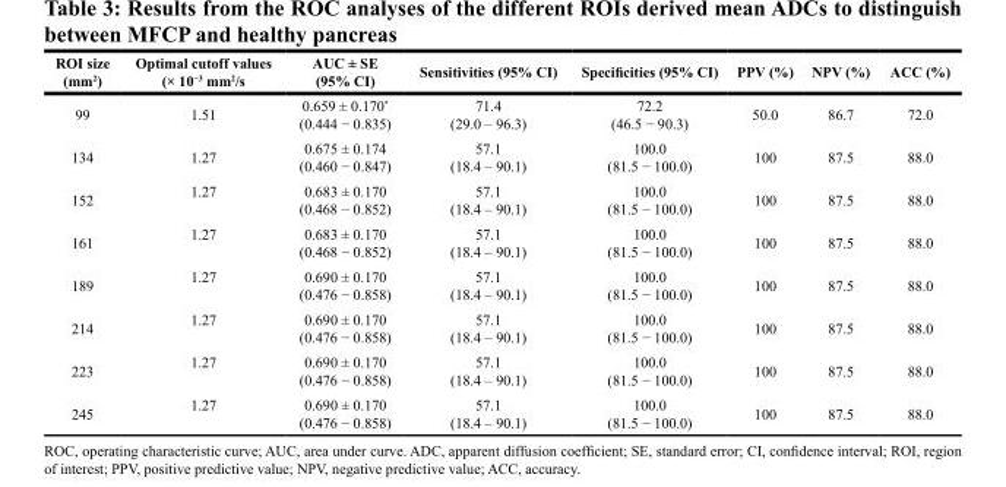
<table><thead><tr><td>ROI size (mm<sup>2</sup>)</td><td>Optimal cutoff values (× 10<sup>−3</sup> mm<sup>2</sup>/s</td><td>AUC ± SE (95% CI)</td><td>Sensitivities (95% CI)</td><td>Specificities (95% CI)</td><td>PPV (%)</td><td>NPV (%)</td><td>ACC (%)</td></tr></thead><tbody><tr><td>99</td><td>1.51</td><td>0.659 ± 0.170* (0.444 − 0.835)</td><td>71.4 (29.0 – 96.3)</td><td>72.2 (46.5 − 90.3)</td><td>50.0</td><td>86.7</td><td>72.0</td></tr><tr><td>134</td><td>1.27</td><td>0.675 ± 0.174 (0.460 − 0.847)</td><td>57.1 (18.4 – 90.1)</td><td>100.0 (81.5 − 100.0)</td><td>100</td><td>87.5</td><td>88.0</td></tr><tr><td>152</td><td>1.27</td><td>0.683 ± 0.170 (0.468 − 0.852)</td><td>57.1 (18.4 – 90.1)</td><td>100.0 (81.5 − 100.0)</td><td>100</td><td>87.5</td><td>88.0</td></tr><tr><td>161</td><td>1.27</td><td>0.683 ± 0.170 (0.468 − 0.852)</td><td>57.1 (18.4 – 90.1)</td><td>100.0 (81.5 − 100.0)</td><td>100</td><td>87.5</td><td>88.0</td></tr><tr><td>189</td><td>1.27</td><td>0.690 ± 0.170 (0.476 − 0.858)</td><td>57.1 (18.4 – 90.1)</td><td>100.0 (81.5 − 100.0)</td><td>100</td><td>87.5</td><td>88.0</td></tr><tr><td>214</td><td>1.27</td><td>0.690 ± 0.170 (0.476 − 0.858)</td><td>57.1 (18.4 – 90.1)</td><td>100.0 (81.5 − 100.0)</td><td>100</td><td>87.5</td><td>88.0</td></tr><tr><td>223</td><td>1.27</td><td>0.690 ± 0.170 (0.476 − 0.858)</td><td>57.1 (18.4 – 90.1)</td><td>100.0 (81.5 − 100.0)</td><td>100</td><td>87.5</td><td>88.0</td></tr><tr><td>245</td><td>1.27</td><td>0.690 ± 0.170 (0.476 − 0.858)</td><td>57.1 (18.4 – 90.1)</td><td>100.0 (81.5 − 100.0)</td><td>100</td><td>87.5</td><td>88.0</td></tr></tbody></table>